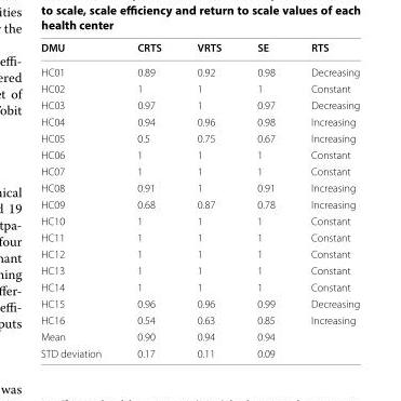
<table><thead><tr><td>DMU</td><td>CRTS</td><td>VRTS</td><td>SE</td><td>RTS</td></tr></thead><tbody><tr><td>HC01</td><td>0.89</td><td>0.92</td><td>0.98</td><td>Decreasing</td></tr><tr><td>HC02</td><td>1</td><td>1</td><td>1</td><td>Constant</td></tr><tr><td>HC03</td><td>0.97</td><td>1</td><td>0.97</td><td>Decreasing</td></tr><tr><td>HC04</td><td>0.94</td><td>0.96</td><td>0.98</td><td>Increasing</td></tr><tr><td>HC05</td><td>0.5</td><td>0.75</td><td>0.67</td><td>Increasing</td></tr><tr><td>HC06</td><td>1</td><td>1</td><td>1</td><td>Constant</td></tr><tr><td>HC07</td><td>1</td><td>1</td><td>1</td><td>Constant</td></tr><tr><td>HC08</td><td>0.91</td><td>1</td><td>0.91</td><td>Increasing</td></tr><tr><td>HC09</td><td>0.68</td><td>0.87</td><td>0.78</td><td>Increasing</td></tr><tr><td>HC10</td><td>1</td><td>1</td><td>1</td><td>Constant</td></tr><tr><td>HC11</td><td>1</td><td>1</td><td>1</td><td>Constant</td></tr><tr><td>HC12</td><td>1</td><td>1</td><td>1</td><td>Constant</td></tr><tr><td>HC13</td><td>1</td><td>1</td><td>1</td><td>Constant</td></tr><tr><td>HC14</td><td>1</td><td>1</td><td>1</td><td>Constant</td></tr><tr><td>HC15</td><td>0.96</td><td>0.96</td><td>0.99</td><td>Decreasing</td></tr><tr><td>HC16</td><td>0.54</td><td>0.63</td><td>0.85</td><td>Increasing</td></tr><tr><td>Mean</td><td>0.90</td><td>0.94</td><td>0.94</td><td></td></tr><tr><td>STD deviation</td><td>0.17</td><td>0.11</td><td>0.09</td><td></td></tr></tbody></table>